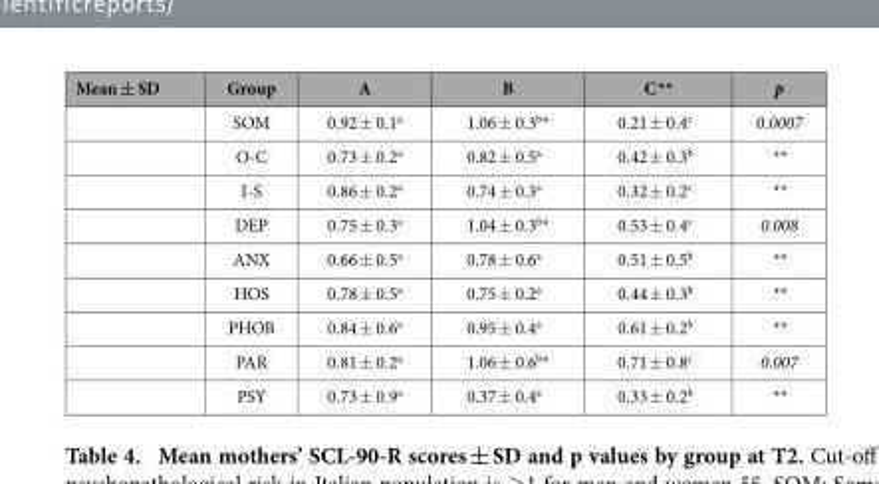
<table><thead><tr><td>Mean ± SD</td><td>Group</td><td>A</td><td>B</td><td>C**</td><td>p</td></tr></thead><tbody><tr><td></td><td>SOM</td><td>0.92 ± 0.1<sup>a</sup></td><td>1.06 ± 0.3<sup>b</sup>*</td><td>0.21 ± 0.4<sup>c</sup></td><td>0.0007</td></tr><tr><td></td><td>O-C</td><td>0.73 ± 0.2<sup>a</sup></td><td>0.82 ± 0.5<sup>a</sup></td><td>0.42 ± 0.3<sup>b</sup></td><td>**</td></tr><tr><td></td><td>I-S</td><td>0.86 ± 0.2<sup>a</sup></td><td>0.74 ± 0.3<sup>a</sup></td><td>0.32 ± 0.2<sup>c</sup></td><td>**</td></tr><tr><td></td><td>DEP</td><td>0.75 ± 0.3<sup>a</sup></td><td>1.04 ± 0.3<sup>b</sup>*</td><td>0.53 ± 0.4<sup>c</sup></td><td>0.008</td></tr><tr><td></td><td>ANX</td><td>0.66 ± 0.5<sup>a</sup></td><td>0.78 ± 0.6<sup>a</sup></td><td>0.51 ± 0.5<sup>b</sup></td><td>**</td></tr><tr><td></td><td>HOS</td><td>0.78 ± 0.5<sup>a</sup></td><td>0.75 ± 0.2<sup>a</sup></td><td>0.44 ± 0.3<sup>b</sup></td><td>**</td></tr><tr><td></td><td>PHOB</td><td>0.84 ± 0.6<sup>a</sup></td><td>0.95 ± 0.4<sup>a</sup></td><td>0.61 ± 0.2<sup>b</sup></td><td>**</td></tr><tr><td></td><td>PAR</td><td>0.81 ± 0.2<sup>a</sup></td><td>1.06 ± 0.6<sup>b</sup>*</td><td>0.71 ± 0.8<sup>c</sup></td><td>0.007</td></tr><tr><td></td><td>PSY</td><td>0.73 ± 0.9<sup>a</sup></td><td>0.37 ± 0.4<sup>a</sup></td><td>0.33 ± 0.2<sup>b</sup></td><td>**</td></tr></tbody></table>